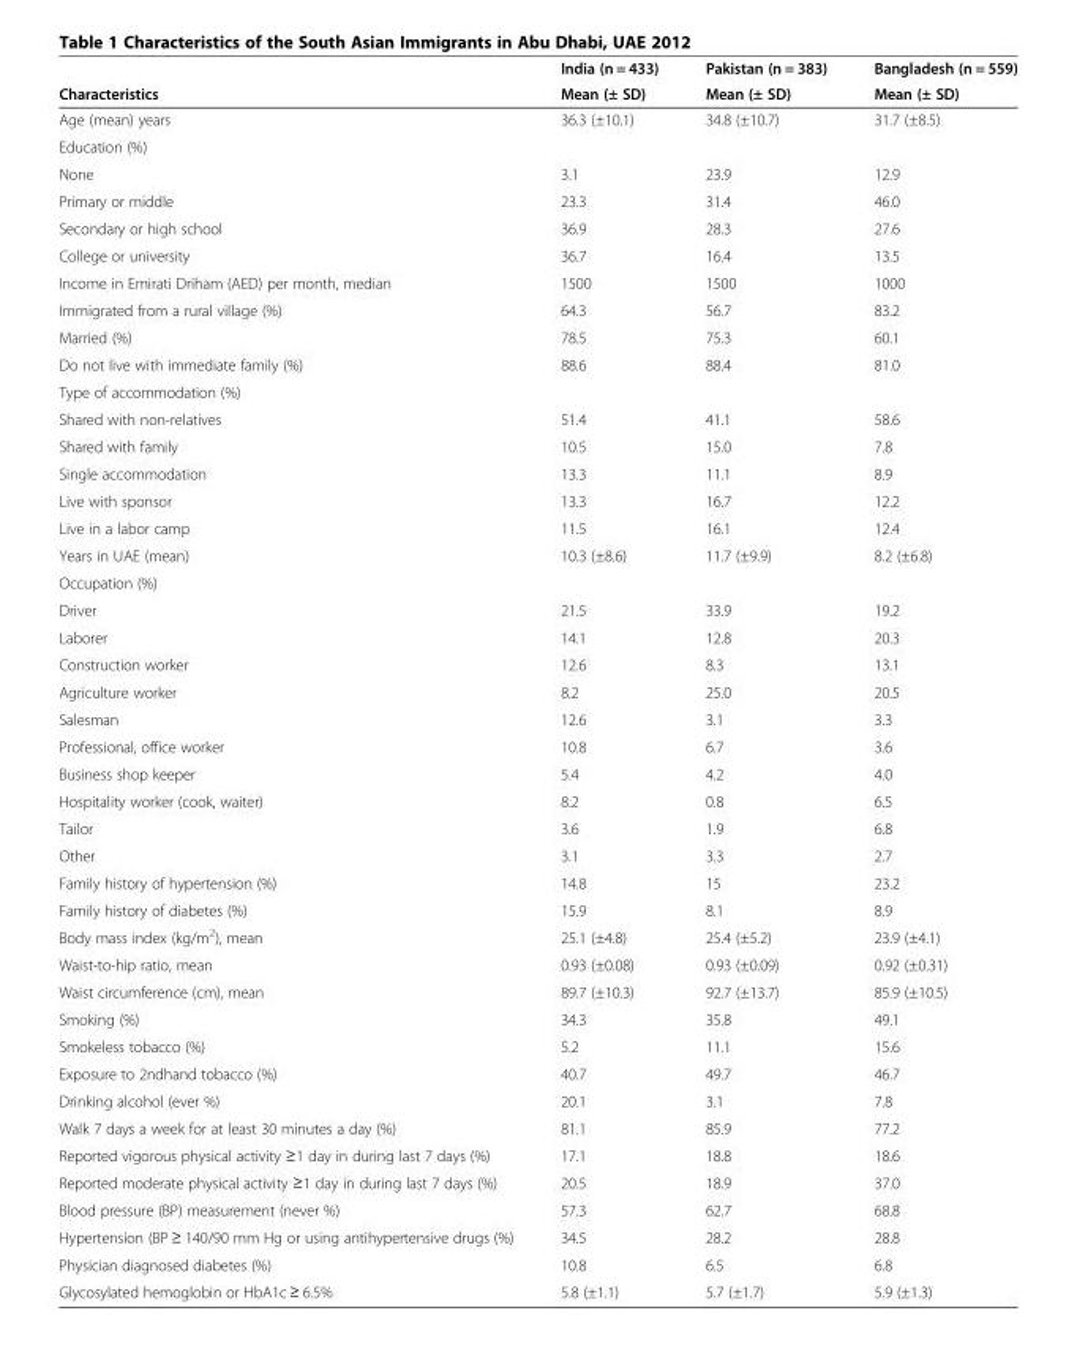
<table><thead><tr><td rowspan="2">Characteristics</td><td rowspan="2">India (n = 433) Mean (± SD)</td><td rowspan="2">Pakistan (n = 383) Mean (± SD)</td><td rowspan="2">Bangladesh (n = 559) Mean (± SD)</td></tr><tr></tr></thead><tbody><tr><td>Age (mean) years</td><td>36.3 (±10.1)</td><td>34.8 (±10.7)</td><td>31.7 (±8.5)</td></tr><tr><td colspan="4">Education (%)</td></tr><tr><td>None</td><td>3.1</td><td>23.9</td><td>12.9</td></tr><tr><td>Primary or middle</td><td>23.3</td><td>31.4</td><td>46.0</td></tr><tr><td>Secondary or high school</td><td>36.9</td><td>28.3</td><td>27.6</td></tr><tr><td>College or university</td><td>36.7</td><td>16.4</td><td>13.5</td></tr><tr><td>Income in Emirati Driham (AED) per month, median</td><td>1500</td><td>1500</td><td>1000</td></tr><tr><td>Immigrated from a rural village (%)</td><td>64.3</td><td>56.7</td><td>83.2</td></tr><tr><td>Married (%)</td><td>78.5</td><td>75.3</td><td>60.1</td></tr><tr><td>Do not live with immediate family (%)</td><td>88.6</td><td>88.4</td><td>81.0</td></tr><tr><td colspan="4">Type of accommodation (%)</td></tr><tr><td>Shared with non-relatives</td><td>51.4</td><td>41.1</td><td>58.6</td></tr><tr><td>Shared with family</td><td>10.5</td><td>15.0</td><td>7.8</td></tr><tr><td>Single accommodation</td><td>13.3</td><td>11.1</td><td>8.9</td></tr><tr><td>Live with sponsor</td><td>13.3</td><td>16.7</td><td>12.2</td></tr><tr><td>Live in a labor camp</td><td>11.5</td><td>16.1</td><td>12.4</td></tr><tr><td>Years in UAE (mean)</td><td>10.3 (±8.6)</td><td>11.7 (±9.9)</td><td>8.2 (±6.8)</td></tr><tr><td colspan="4">Occupation (%)</td></tr><tr><td>Driver</td><td>21.5</td><td>33.9</td><td>19.2</td></tr><tr><td>Laborer</td><td>14.1</td><td>12.8</td><td>20.3</td></tr><tr><td>Construction worker</td><td>12.6</td><td>8.3</td><td>13.1</td></tr><tr><td>Agriculture worker</td><td>8.2</td><td>25.0</td><td>20.5</td></tr><tr><td>Salesman</td><td>12.6</td><td>3.1</td><td>3.3</td></tr><tr><td>Professional, office worker</td><td>10.8</td><td>6.7</td><td>3.6</td></tr><tr><td>Business shop keeper</td><td>5.4</td><td>4.2</td><td>4.0</td></tr><tr><td>Hospitality worker (cook, waiter)</td><td>8.2</td><td>0.8</td><td>6.5</td></tr><tr><td>Tailor</td><td>3.6</td><td>1.9</td><td>6.8</td></tr><tr><td>Other</td><td>3.1</td><td>3.3</td><td>2.7</td></tr><tr><td>Family history of hypertension (%)</td><td>14.8</td><td>15</td><td>23.2</td></tr><tr><td>Family history of diabetes (%)</td><td>15.9</td><td>8.1</td><td>8.9</td></tr><tr><td>Body mass index (kg/m<sup>2</sup>), mean</td><td>25.1 (±4.8)</td><td>25.4 (±5.2)</td><td>23.9 (±4.1)</td></tr><tr><td>Waist-to-hip ratio, mean</td><td>0.93 (±0.08)</td><td>0.93 (±0.09)</td><td>0.92 (±0.31)</td></tr><tr><td>Waist circumference (cm), mean</td><td>89.7 (±10.3)</td><td>92.7 (±13.7)</td><td>85.9 (±10.5)</td></tr><tr><td>Smoking (%)</td><td>34.3</td><td>35.8</td><td>49.1</td></tr><tr><td>Smokeless tobacco (%)</td><td>5.2</td><td>11.1</td><td>15.6</td></tr><tr><td>Exposure to 2ndhand tobacco (%)</td><td>40.7</td><td>49.7</td><td>46.7</td></tr><tr><td>Drinking alcohol (ever %)</td><td>20.1</td><td>3.1</td><td>7.8</td></tr><tr><td>Walk 7 days a week for at least 30 minutes a day (%)</td><td>81.1</td><td>85.9</td><td>77.2</td></tr><tr><td>Reported vigorous physical activity ≥1 day in during last 7 days (%)</td><td>17.1</td><td>18.8</td><td>18.6</td></tr><tr><td>Reported moderate physical activity ≥1 day in during last 7 days (%)</td><td>20.5</td><td>18.9</td><td>37.0</td></tr><tr><td>Blood pressure (BP) measurement (never %)</td><td>57.3</td><td>62.7</td><td>68.8</td></tr><tr><td>Hypertension (BP ≥ 140/90 mm Hg or using antihypertensive drugs (%)</td><td>34.5</td><td>28.2</td><td>28.8</td></tr><tr><td>Physician diagnosed diabetes (%)</td><td>10.8</td><td>6.5</td><td>6.8</td></tr><tr><td>Glycosylated hemoglobin or HbA1c ≥ 6.5%</td><td>5.8 (±1.1)</td><td>5.7 (±1.7)</td><td>5.9 (±1.3)</td></tr></tbody></table>